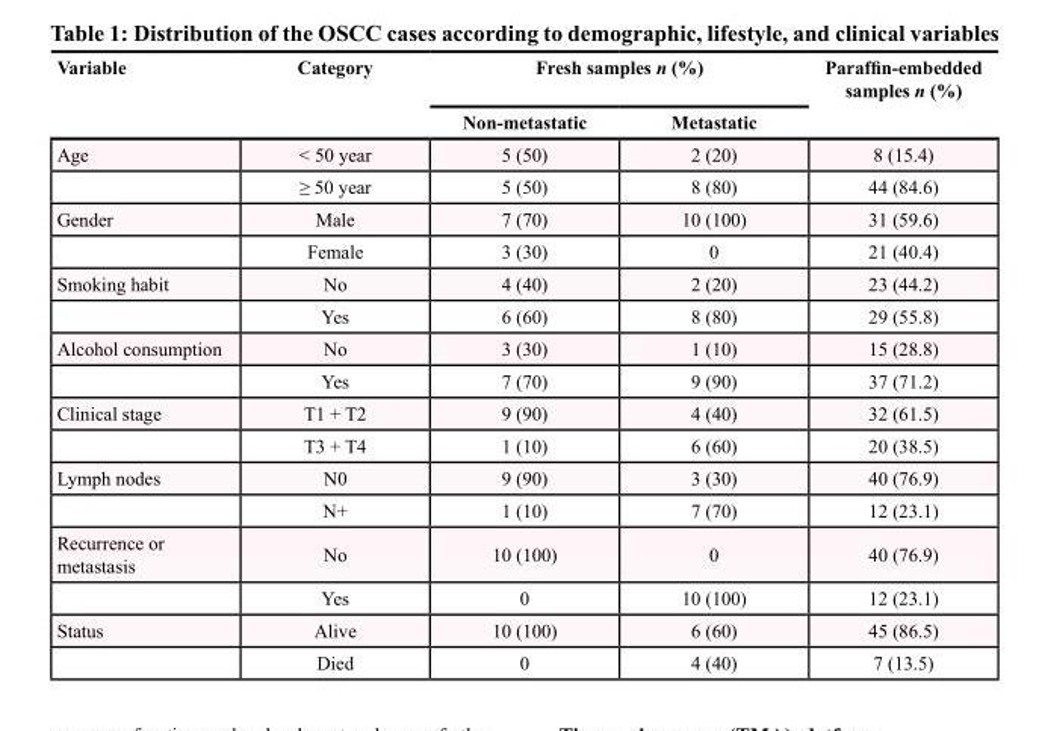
<table><thead><tr><td rowspan="2">Variable</td><td rowspan="2">Category</td><td colspan="2">Fresh samples n (%)</td><td rowspan="2">Paraffin-embedded samples n (%)</td></tr><tr><td>Non-metastatic</td><td>Metastatic</td></tr></thead><tbody><tr><td rowspan="2">Age</td><td>&lt; 50 year</td><td>5 (50)</td><td>2 (20)</td><td>8 (15.4)</td></tr><tr><td>≥ 50 year</td><td>5 (50)</td><td>8 (80)</td><td>44 (84.6)</td></tr><tr><td rowspan="2">Gender</td><td>Male</td><td>7 (70)</td><td>10 (100)</td><td>31 (59.6)</td></tr><tr><td>Female</td><td>3 (30)</td><td>0</td><td>21 (40.4)</td></tr><tr><td rowspan="2">Smoking habit</td><td>No</td><td>4 (40)</td><td>2 (20)</td><td>23 (44.2)</td></tr><tr><td>Yes</td><td>6 (60)</td><td>8 (80)</td><td>29 (55.8)</td></tr><tr><td rowspan="2">Alcohol consumption</td><td>No</td><td>3 (30)</td><td>1 (10)</td><td>15 (28.8)</td></tr><tr><td>Yes</td><td>7 (70)</td><td>9 (90)</td><td>37 (71.2)</td></tr><tr><td rowspan="2">Clinical stage</td><td>T1 + T2</td><td>9 (90)</td><td>4 (40)</td><td>32 (61.5)</td></tr><tr><td>T3 + T4</td><td>1 (10)</td><td>6 (60)</td><td>20 (38.5)</td></tr><tr><td rowspan="2">Lymph nodes</td><td>N0</td><td>9 (90)</td><td>3 (30)</td><td>40 (76.9)</td></tr><tr><td>N+</td><td>1 (10)</td><td>7 (70)</td><td>12 (23.1)</td></tr><tr><td rowspan="2">Recurrence or metastasis</td><td>No</td><td>10 (100)</td><td>0</td><td>40 (76.9)</td></tr><tr><td>Yes</td><td>0</td><td>10 (100)</td><td>12 (23.1)</td></tr><tr><td rowspan="2">Status</td><td>Alive</td><td>10 (100)</td><td>6 (60)</td><td>45 (86.5)</td></tr><tr><td>Died</td><td>0</td><td>4 (40)</td><td>7 (13.5)</td></tr></tbody></table>